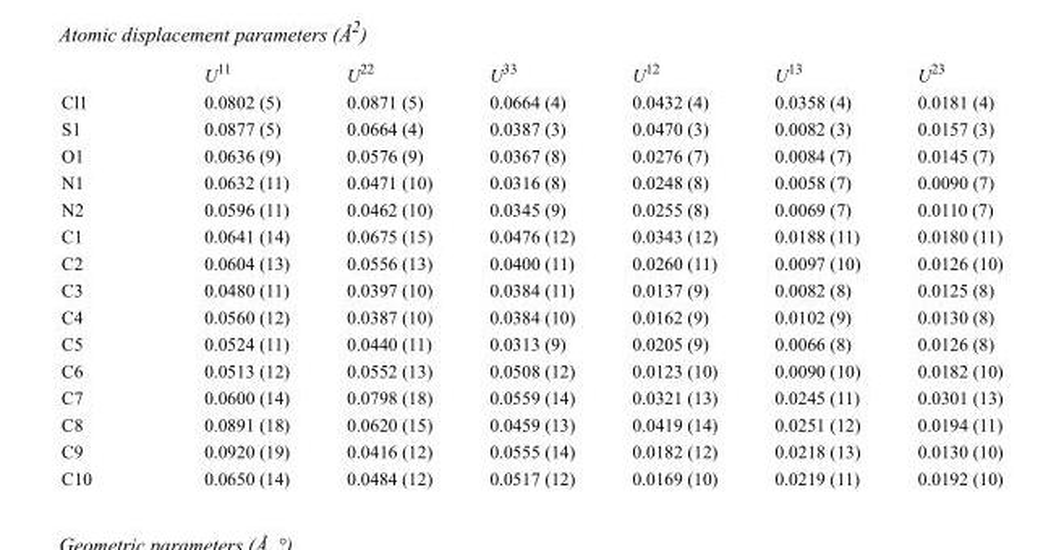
<table><thead><tr><td></td><td>U<sup>11</sup></td><td>U<sup>22</sup></td><td>U<sup>33</sup></td><td>U<sup>12</sup></td><td>U<sup>13</sup></td><td>U<sup>23</sup></td></tr></thead><tbody><tr><td>Cl1</td><td>0.0802 (5)</td><td>0.0871 (5)</td><td>0.0664 (4)</td><td>0.0432 (4)</td><td>0.0358 (4)</td><td>0.0181 (4)</td></tr><tr><td>S1</td><td>0.0877 (5)</td><td>0.0664 (4)</td><td>0.0387 (3)</td><td>0.0470 (3)</td><td>0.0082 (3)</td><td>0.0157 (3)</td></tr><tr><td>O1</td><td>0.0636 (9)</td><td>0.0576 (9)</td><td>0.0367 (8)</td><td>0.0276 (7)</td><td>0.0084 (7)</td><td>0.0145 (7)</td></tr><tr><td>N1</td><td>0.0632 (11)</td><td>0.0471 (10)</td><td>0.0316 (8)</td><td>0.0248 (8)</td><td>0.0058 (7)</td><td>0.0090 (7)</td></tr><tr><td>N2</td><td>0.0596 (11)</td><td>0.0462 (10)</td><td>0.0345 (9)</td><td>0.0255 (8)</td><td>0.0069 (7)</td><td>0.0110 (7)</td></tr><tr><td>C1</td><td>0.0641 (14)</td><td>0.0675 (15)</td><td>0.0476 (12)</td><td>0.0343 (12)</td><td>0.0188 (11)</td><td>0.0180 (11)</td></tr><tr><td>C2</td><td>0.0604 (13)</td><td>0.0556 (13)</td><td>0.0400 (11)</td><td>0.0260 (11)</td><td>0.0097 (10)</td><td>0.0126 (10)</td></tr><tr><td>C3</td><td>0.0480 (11)</td><td>0.0397 (10)</td><td>0.0384 (11)</td><td>0.0137 (9)</td><td>0.0082 (8)</td><td>0.0125 (8)</td></tr><tr><td>C4</td><td>0.0560 (12)</td><td>0.0387 (10)</td><td>0.0384 (10)</td><td>0.0162 (9)</td><td>0.0102 (9)</td><td>0.0130 (8)</td></tr><tr><td>C5</td><td>0.0524 (11)</td><td>0.0440 (11)</td><td>0.0313 (9)</td><td>0.0205 (9)</td><td>0.0066 (8)</td><td>0.0126 (8)</td></tr><tr><td>C6</td><td>0.0513 (12)</td><td>0.0552 (13)</td><td>0.0508 (12)</td><td>0.0123 (10)</td><td>0.0090 (10)</td><td>0.0182 (10)</td></tr><tr><td>C7</td><td>0.0600 (14)</td><td>0.0798 (18)</td><td>0.0559 (14)</td><td>0.0321 (13)</td><td>0.0245 (11)</td><td>0.0301 (13)</td></tr><tr><td>C8</td><td>0.0891 (18)</td><td>0.0620 (15)</td><td>0.0459 (13)</td><td>0.0419 (14)</td><td>0.0251 (12)</td><td>0.0194 (11)</td></tr><tr><td>C9</td><td>0.0920 (19)</td><td>0.0416 (12)</td><td>0.0555 (14)</td><td>0.0182 (12)</td><td>0.0218 (13)</td><td>0.0130 (10)</td></tr><tr><td>C10</td><td>0.0650 (14)</td><td>0.0484 (12)</td><td>0.0517 (12)</td><td>0.0169 (10)</td><td>0.0219 (11)</td><td>0.0192 (10)</td></tr></tbody></table>